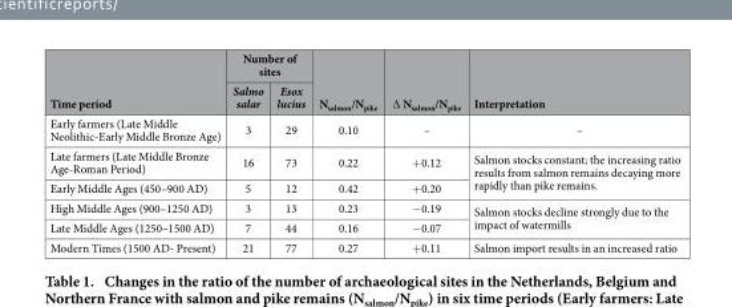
<table><thead><tr><td rowspan="2">Time period</td><td colspan="2">Number of sites</td><td rowspan="2">N<sub>salmon</sub>/N<sub>pike</sub></td><td rowspan="2">∆ N<sub>salmon</sub>/N<sub>pike</sub></td><td rowspan="2">Interpretation</td></tr><tr><td>Salmo salar</td><td>Esox lucius</td></tr></thead><tbody><tr><td>Early farmers (Late Middle Neolithic-Early Middle Bronze Age)</td><td>3</td><td>29</td><td>0.10</td><td>–</td><td>–</td></tr><tr><td>Late farmers (Late Middle Bronze Age-Roman Period)</td><td>16</td><td>73</td><td>0.22</td><td>+ 0.12</td><td rowspan="2">Salmon stocks constant; the increasing ratio results from salmon remains decaying more rapidly than pike remains.</td></tr><tr><td>Early Middle Ages (450–900 AD)</td><td>5</td><td>12</td><td>0.42</td><td>+ 0.20</td></tr><tr><td>High Middle Ages (900–1250 AD)</td><td>3</td><td>13</td><td>0.23</td><td>− 0.19</td><td rowspan="2">Salmon stocks decline strongly due to the impact of watermills</td></tr><tr><td>Late Middle Ages (1250–1500 AD)</td><td>7</td><td>44</td><td>0.16</td><td>− 0.07</td></tr><tr><td>Modern Times (1500 AD- Present)</td><td>21</td><td>77</td><td>0.27</td><td>+ 0.11</td><td>Salmon import results in an increased ratio</td></tr></tbody></table>